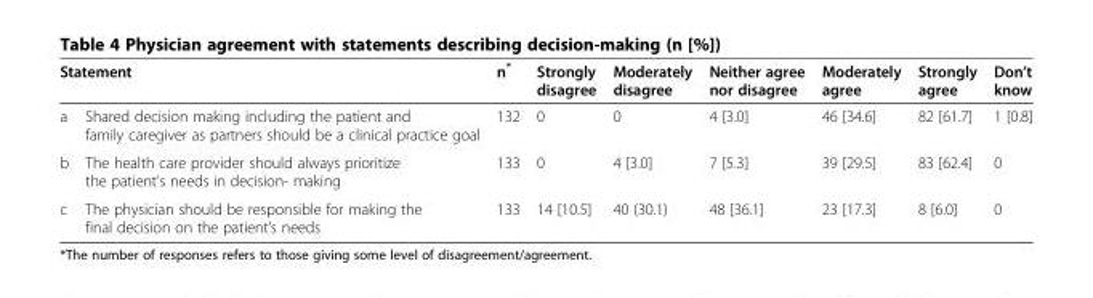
<table><thead><tr><td colspan="2">Statement</td><td rowspan="2">n* 132</td><td rowspan="2">Strongly disagree 0</td><td rowspan="2">Moderately disagree 0</td><td rowspan="2">Neither agree nor disagree 4 [3.0]</td><td rowspan="2">Moderately agree 46 [34.6]</td><td rowspan="2">Strongly agree 82 [61.7]</td><td rowspan="2">Don’t know 1 [0.8]</td></tr><tr><td>a</td><td>Shared decision making including the patient and family caregiver as partners should be a clinical practice goal</td></tr></thead><tbody><tr><td>b</td><td>The health care provider should always prioritize the patient’s needs in decision- making</td><td>133</td><td>0</td><td>4 [3.0]</td><td>7 [5.3]</td><td>39 [29.5]</td><td>83 [62.4]</td><td>0</td></tr><tr><td>c</td><td>The physician should be responsible for making the final decision on the patient’s needs</td><td>133</td><td>14 [10.5]</td><td>40 (30.1)</td><td>48 [36.1]</td><td>23 [17.3]</td><td>8 [6.0]</td><td>0</td></tr></tbody></table>